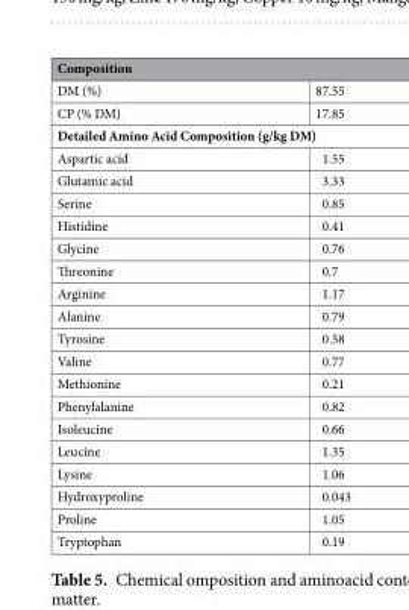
<table><thead><tr><td colspan="2">Composition</td></tr><tr><td>DM (%)</td><td>87.55</td></tr></thead><tbody><tr><td>CP (% DM)</td><td>17.85</td></tr><tr><td colspan="2">Detailed Amino Acid Composition (g/kg DM)</td></tr><tr><td>Aspartic acid</td><td>1.55</td></tr><tr><td>Glutamic acid</td><td>3.33</td></tr><tr><td>Serine</td><td>0.85</td></tr><tr><td>Histidine</td><td>0.41</td></tr><tr><td>Glycine</td><td>0.76</td></tr><tr><td>Threonine</td><td>0.7</td></tr><tr><td>Arginine</td><td>1.17</td></tr><tr><td>Alanine</td><td>0.79</td></tr><tr><td>Tyrosine</td><td>0.58</td></tr><tr><td>Valine</td><td>0.77</td></tr><tr><td>Methionine</td><td>0.21</td></tr><tr><td>Phenylalanine</td><td>0.82</td></tr><tr><td>Isoleucine</td><td>0.66</td></tr><tr><td>Leucine</td><td>1.35</td></tr><tr><td>Lysine</td><td>1.06</td></tr><tr><td>Hydroxyproline</td><td>0.043</td></tr><tr><td>Proline</td><td>1.05</td></tr><tr><td>Tryptophan</td><td>0.19</td></tr></tbody></table>